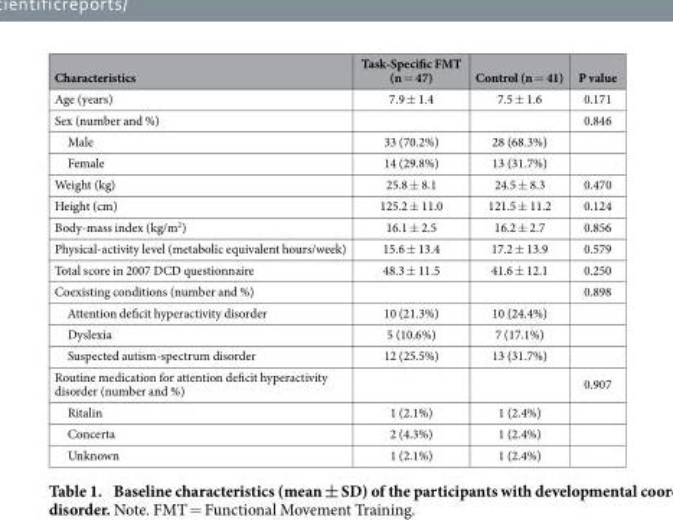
<table><thead><tr><td>Characteristics</td><td>Task-Specific FMT (n = 47)</td><td>Control (n = 41)</td><td>P value</td></tr></thead><tbody><tr><td>Age (years)</td><td>7.9 ± 1.4</td><td>7.5 ± 1.6</td><td>0.171</td></tr><tr><td>Sex (number and %)</td><td></td><td></td><td>0.846</td></tr><tr><td>Male</td><td>33 (70.2%)</td><td>28 (68.3%)</td><td></td></tr><tr><td>Female</td><td>14 (29.8%)</td><td>13 (31.7%)</td><td></td></tr><tr><td>Weight (kg)</td><td>25.8 ± 8.1</td><td>24.5 ± 8.3</td><td>0.470</td></tr><tr><td>Height (cm)</td><td>125.2 ± 11.0</td><td>121.5 ± 11.2</td><td>0.124</td></tr><tr><td>Body-mass index (kg/m<sup>2</sup>)</td><td>16.1 ± 2.5</td><td>16.2 ± 2.7</td><td>0.856</td></tr><tr><td>Physical-activity level (metabolic equivalent hours/week)</td><td>15.6 ± 13.4</td><td>17.2 ± 13.9</td><td>0.579</td></tr><tr><td>Total score in 2007 DCD questionnaire</td><td>48.3 ± 11.5</td><td>41.6 ± 12.1</td><td>0.250</td></tr><tr><td>Coexisting conditions (number and %)</td><td></td><td></td><td>0.898</td></tr><tr><td>Attention deficit hyperactivity disorder</td><td>10 (21.3%)</td><td>10 (24.4%)</td><td></td></tr><tr><td>Dyslexia</td><td>5 (10.6%)</td><td>7 (17.1%)</td><td></td></tr><tr><td>Suspected autism-spectrum disorder</td><td>12 (25.5%)</td><td>13 (31.7%)</td><td></td></tr><tr><td>Routine medication for attention deficit hyperactivity disorder (number and %)</td><td></td><td></td><td>0.907</td></tr><tr><td>Ritalin</td><td>1 (2.1%)</td><td>1 (2.4%)</td><td></td></tr><tr><td>Concerta</td><td>2 (4.3%)</td><td>1 (2.4%)</td><td></td></tr><tr><td>Unknown</td><td>1 (2.1%)</td><td>1 (2.4%)</td><td></td></tr></tbody></table>